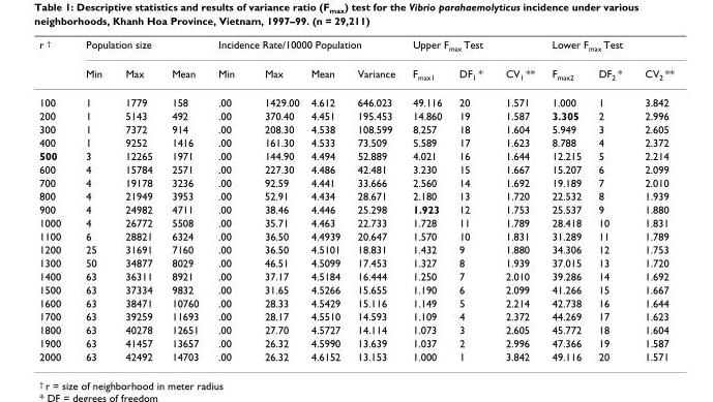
<table><thead><tr><td rowspan="2">r <sup>†</sup></td><td colspan="3">Population size</td><td colspan="4">Incidence Rate/10000 Population</td><td colspan="3">Upper F<sub>max</sub> Test</td><td colspan="3">Lower F<sub>max</sub> Test</td></tr><tr><td>Min</td><td>Max</td><td>Mean</td><td>Min</td><td>Max</td><td>Mean</td><td>Variance</td><td>F<sub>max1</sub></td><td>DF<sub>1</sub> *</td><td>CV<sub>1</sub> **</td><td>F<sub>max2</sub></td><td>DF<sub>2</sub> *</td><td>CV<sub>2</sub> **</td></tr></thead><tbody><tr><td>100</td><td>1</td><td>1779</td><td>158</td><td>.00</td><td>1429.00</td><td>4.612</td><td>646.023</td><td>49.116</td><td>20</td><td>1.571</td><td>1.000</td><td>1</td><td>3.842</td></tr><tr><td>200</td><td>1</td><td>5143</td><td>492</td><td>.00</td><td>370.40</td><td>4.451</td><td>195.453</td><td>14.860</td><td>19</td><td>1.587</td><td>3.305</td><td>2</td><td>2.996</td></tr><tr><td>300</td><td>1</td><td>7372</td><td>914</td><td>.00</td><td>208.30</td><td>4.538</td><td>108.599</td><td>8.257</td><td>18</td><td>1.604</td><td>5.949</td><td>3</td><td>2.605</td></tr><tr><td>400</td><td>1</td><td>9252</td><td>1416</td><td>.00</td><td>161.30</td><td>4.533</td><td>73.509</td><td>5.589</td><td>17</td><td>1.623</td><td>8.788</td><td>4</td><td>2.372</td></tr><tr><td>500</td><td>3</td><td>12265</td><td>1971</td><td>.00</td><td>144.90</td><td>4.494</td><td>52.889</td><td>4.021</td><td>16</td><td>1.644</td><td>12.215</td><td>5</td><td>2.214</td></tr><tr><td>600</td><td>4</td><td>15784</td><td>2571</td><td>.00</td><td>227.30</td><td>4.486</td><td>42.481</td><td>3.230</td><td>15</td><td>1.667</td><td>15.207</td><td>6</td><td>2.099</td></tr><tr><td>700</td><td>4</td><td>19178</td><td>3236</td><td>.00</td><td>92.59</td><td>4.441</td><td>33.666</td><td>2.560</td><td>14</td><td>1.692</td><td>19.189</td><td>7</td><td>2.010</td></tr><tr><td>800</td><td>4</td><td>21949</td><td>3953</td><td>.00</td><td>52.91</td><td>4.434</td><td>28.671</td><td>2.180</td><td>13</td><td>1.720</td><td>22.532</td><td>8</td><td>1.939</td></tr><tr><td>900</td><td>4</td><td>24982</td><td>4711</td><td>.00</td><td>38.46</td><td>4.446</td><td>25.298</td><td>1.923</td><td>12</td><td>1.753</td><td>25.537</td><td>9</td><td>1.880</td></tr><tr><td>1000</td><td>4</td><td>26772</td><td>5508</td><td>.00</td><td>35.71</td><td>4.463</td><td>22.733</td><td>1.728</td><td>11</td><td>1.789</td><td>28.418</td><td>10</td><td>1.831</td></tr><tr><td>1100</td><td>6</td><td>28821</td><td>6324</td><td>.00</td><td>36.50</td><td>4.4939</td><td>20.647</td><td>1.570</td><td>10</td><td>1.831</td><td>31.289</td><td>11</td><td>1.789</td></tr><tr><td>1200</td><td>25</td><td>31691</td><td>7160</td><td>.00</td><td>36.50</td><td>4.5101</td><td>18.831</td><td>1.432</td><td>9</td><td>1.880</td><td>34.306</td><td>12</td><td>1.753</td></tr><tr><td>1300</td><td>50</td><td>34877</td><td>8029</td><td>.00</td><td>46.51</td><td>4.5099</td><td>17.453</td><td>1.327</td><td>8</td><td>1.939</td><td>37.015</td><td>13</td><td>1.720</td></tr><tr><td>1400</td><td>63</td><td>36311</td><td>8921</td><td>.00</td><td>37.17</td><td>4.5184</td><td>16.444</td><td>1.250</td><td>7</td><td>2.010</td><td>39.286</td><td>14</td><td>1.692</td></tr><tr><td>1500</td><td>63</td><td>37334</td><td>9832</td><td>.00</td><td>31.65</td><td>4.5266</td><td>15.655</td><td>1.190</td><td>6</td><td>2.099</td><td>41.266</td><td>15</td><td>1.667</td></tr><tr><td>1600</td><td>63</td><td>38471</td><td>10760</td><td>.00</td><td>28.33</td><td>4.5429</td><td>15.116</td><td>1.149</td><td>5</td><td>2.214</td><td>42.738</td><td>16</td><td>1.644</td></tr><tr><td>1700</td><td>63</td><td>39259</td><td>11693</td><td>.00</td><td>28.17</td><td>4.5510</td><td>14.593</td><td>1.109</td><td>4</td><td>2.372</td><td>44.269</td><td>17</td><td>1.623</td></tr><tr><td>1800</td><td>63</td><td>40278</td><td>12651</td><td>.00</td><td>27.70</td><td>4.5727</td><td>14.114</td><td>1.073</td><td>3</td><td>2.605</td><td>45.772</td><td>18</td><td>1.604</td></tr><tr><td>1900</td><td>63</td><td>41457</td><td>13657</td><td>.00</td><td>26.32</td><td>4.5990</td><td>13.639</td><td>1.037</td><td>2</td><td>2.996</td><td>47.366</td><td>19</td><td>1.587</td></tr><tr><td>2000</td><td>63</td><td>42492</td><td>14703</td><td>.00</td><td>26.32</td><td>4.6152</td><td>13.153</td><td>1.000</td><td>1</td><td>3.842</td><td>49.116</td><td>20</td><td>1.571</td></tr></tbody></table>